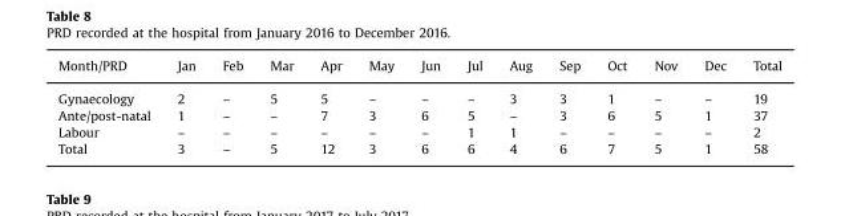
<table><thead><tr><td>Month/PRD</td><td>Jan</td><td>Feb</td><td>Mar</td><td>Apr</td><td>May</td><td>Jun</td><td>Jul</td><td>Aug</td><td>Sep</td><td>Oct</td><td>Nov</td><td>Dec</td><td>Total</td></tr></thead><tbody><tr><td>Gynaecology</td><td>2</td><td>–</td><td>5</td><td>5</td><td>–</td><td>–</td><td>–</td><td>3</td><td>3</td><td>1</td><td>–</td><td>–</td><td>19</td></tr><tr><td>Ante/post-natal</td><td>1</td><td>–</td><td>–</td><td>7</td><td>3</td><td>6</td><td>5</td><td>–</td><td>3</td><td>6</td><td>5</td><td>1</td><td>37</td></tr><tr><td>Labour</td><td>–</td><td>–</td><td>–</td><td>–</td><td>–</td><td>–</td><td>1</td><td>1</td><td>–</td><td>–</td><td>–</td><td>–</td><td>2</td></tr><tr><td>Total</td><td>3</td><td>–</td><td>5</td><td>12</td><td>3</td><td>6</td><td>6</td><td>4</td><td>6</td><td>7</td><td>5</td><td>1</td><td>58</td></tr></tbody></table>